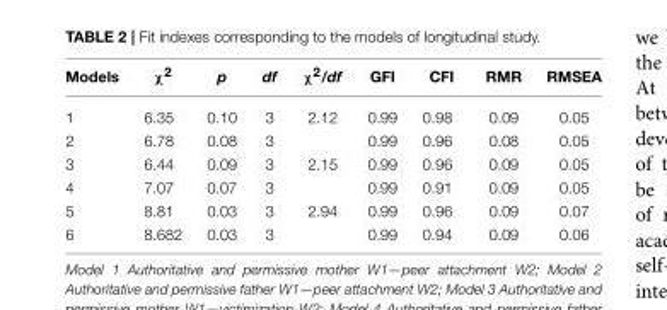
<table><thead><tr><td>Models</td><td>χ<sup>2</sup></td><td>p</td><td>df</td><td>χ<sup>2</sup>/df</td><td>GFI</td><td>CFI</td><td>RMR</td><td>RMSEA</td></tr></thead><tbody><tr><td>1</td><td>6.35</td><td>0.10</td><td>3</td><td>2.12</td><td>0.99</td><td>0.98</td><td>0.09</td><td>0.05</td></tr><tr><td>2</td><td>6.78</td><td>0.08</td><td>3</td><td></td><td>0.99</td><td>0.96</td><td>0.08</td><td>0.05</td></tr><tr><td>3</td><td>6.44</td><td>0.09</td><td>3</td><td>2.15</td><td>0.99</td><td>0.96</td><td>0.09</td><td>0.05</td></tr><tr><td>4</td><td>7.07</td><td>0.07</td><td>3</td><td></td><td>0.99</td><td>0.91</td><td>0.09</td><td>0.05</td></tr><tr><td>5</td><td>8.81</td><td>0.03</td><td>3</td><td>2.94</td><td>0.99</td><td>0.96</td><td>0.09</td><td>0.07</td></tr><tr><td>6</td><td>8.682</td><td>0.03</td><td>3</td><td></td><td>0.99</td><td>0.94</td><td>0.09</td><td>0.06</td></tr></tbody></table>